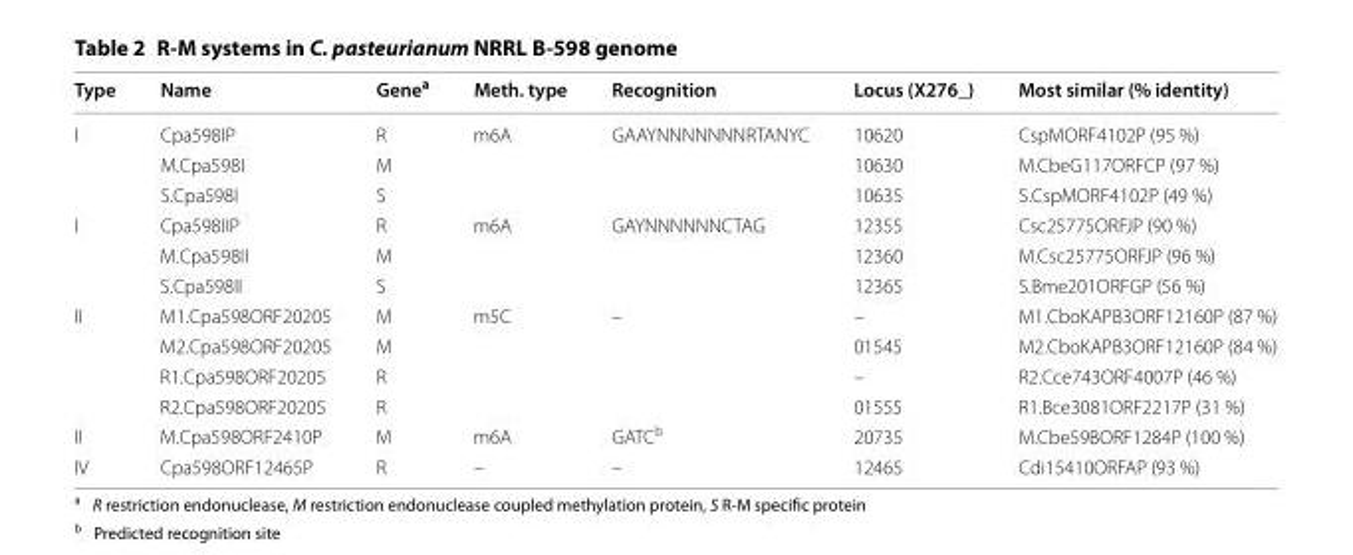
<table><thead><tr><td>Type</td><td>Name</td><td>Gene<sup>a</sup></td><td>Meth. type</td><td>Recognition</td><td>Locus (X276_)</td><td>Most similar (% identity)</td></tr></thead><tbody><tr><td rowspan="3">I</td><td>Cpa598IP</td><td>R</td><td rowspan="3">m6A</td><td rowspan="3">GAAYNNNNNNNRTANYC</td><td>10620</td><td>CspMORF4102P (95 %)</td></tr><tr><td>M.Cpa598I</td><td>M</td><td>10630</td><td>M.CbeG117ORFCP (97 %)</td></tr><tr><td>S.Cpa598I</td><td>S</td><td>10635</td><td>S.CspMORF4102P (49 %)</td></tr><tr><td rowspan="3">I</td><td>Cpa598IIP</td><td>R</td><td rowspan="3">m6A</td><td rowspan="3">GAYNNNNNNCTAG</td><td>12355</td><td>Csc25775ORFJP (90 %)</td></tr><tr><td>M.Cpa598II</td><td>M</td><td>12360</td><td>M.Csc25775ORFJP (96 %)</td></tr><tr><td>S.Cpa598II</td><td>S</td><td>12365</td><td>S.Bme201ORFGP (56 %)</td></tr><tr><td rowspan="4">II</td><td>M1.Cpa598ORF20205</td><td>M</td><td rowspan="4">m5C</td><td rowspan="4">–</td><td>–</td><td>M1.CboKAPB3ORF12160P (87 %)</td></tr><tr><td>M2.Cpa598ORF20205</td><td>M</td><td>01545</td><td>M2.CboKAPB3ORF12160P (84 %)</td></tr><tr><td>R1.Cpa598ORF20205</td><td>R</td><td>–</td><td>R2.Cce743ORF4007P (46 %)</td></tr><tr><td>R2.Cpa598ORF20205</td><td>R</td><td>01555</td><td>R1.Bce3081ORF2217P (31 %)</td></tr><tr><td>II</td><td>M.Cpa598ORF2410P</td><td>M</td><td>m6A</td><td>GATC<sup>b</sup></td><td>20735</td><td>M.Cbe59BORF1284P (100 %)</td></tr><tr><td>IV</td><td>Cpa598ORF12465P</td><td>R</td><td>–</td><td>–</td><td>12465</td><td>Cdi15410ORFAP (93 %)</td></tr></tbody></table>